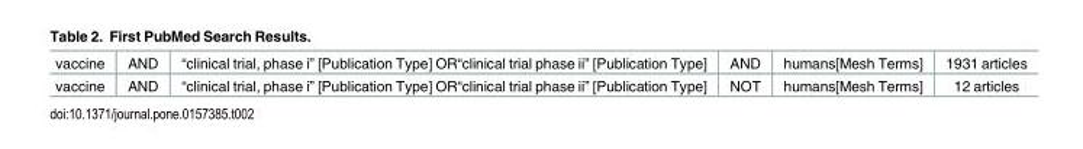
<table><tbody><tr><td>vaccine</td><td>AND</td><td>“clinical trial, phase i” [Publication Type] OR“clinical trial phase ii” [Publication Type]</td><td>AND</td><td>humans[Mesh Terms]</td><td>1931 articles</td></tr><tr><td>vaccine</td><td>AND</td><td>“clinical trial, phase i” [Publication Type] OR“clinical trial phase ii” [Publication Type]</td><td>NOT</td><td>humans[Mesh Terms]</td><td>12 articles</td></tr></tbody></table>